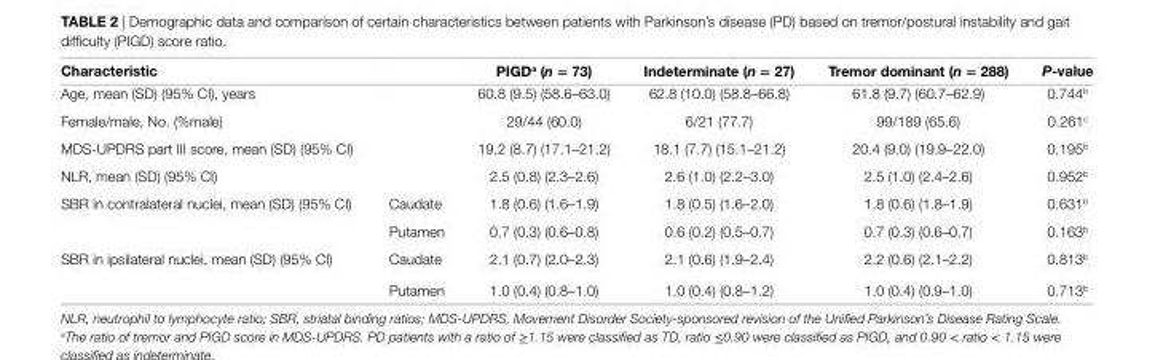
<table><thead><tr><td colspan="2">characteristic</td><td>PigD<sup>a</sup> (n = 73)</td><td>indeterminate (n = 27)</td><td>Tremor dominant (n = 288)</td><td>P-value</td></tr></thead><tbody><tr><td colspan="2">Age, mean (SD) (95% CI), years</td><td>60.8 (9.5) (58.6–63.0)</td><td>62.8 (10.0) (58.8–66.8)</td><td>61.8 (9.7) (60.7–62.9)</td><td>0.744<sup>b</sup></td></tr><tr><td colspan="2">Female/male, No. (%male)</td><td>29/44 (60.0)</td><td>6/21 (77.7)</td><td>99/189 (65.6)</td><td>0.261<sup>c</sup></td></tr><tr><td colspan="2">MDS-UPDRS part III score, mean (SD) (95% CI)</td><td>19.2 (8.7) (17.1–21.2)</td><td>18.1 (7.7) (15.1–21.2)</td><td>20.4 (9.0) (19.9–22.0)</td><td>0.195<sup>b</sup></td></tr><tr><td colspan="2">NLR, mean (SD) (95% CI)</td><td>2.5 (0.8) (2.3–2.6)</td><td>2.6 (1.0) (2.2–3.0)</td><td>2.5 (1.0) (2.4–2.6)</td><td>0.952<sup>b</sup></td></tr><tr><td rowspan="2">SBR in contralateral nuclei, mean (SD) (95% CI)</td><td>Caudate</td><td>1.8 (0.6) (1.6–1.9)</td><td>1.8 (0.5) (1.6–2.0)</td><td>1.8 (0.6) (1.8–1.9)</td><td>0.631<sup>b</sup></td></tr><tr><td>Putamen</td><td>0.7 (0.3) (0.6–0.8)</td><td>0.6 (0.2) (0.5–0.7)</td><td>0.7 (0.3) (0.6–0.7)</td><td>0.163<sup>b</sup></td></tr><tr><td rowspan="2">SBR in ipsilateral nuclei, mean (SD) (95% CI)</td><td>Caudate</td><td>2.1 (0.7) (2.0–2.3)</td><td>2.1 (0.6) (1.9–2.4)</td><td>2.2 (0.6) (2.1–2.2)</td><td>0.813<sup>b</sup></td></tr><tr><td>Putamen</td><td>1.0 (0.4) (0.8–1.0)</td><td>1.0 (0.4) (0.8–1.2)</td><td>1.0 (0.4) (0.9–1.0)</td><td>0.713<sup>b</sup></td></tr></tbody></table>